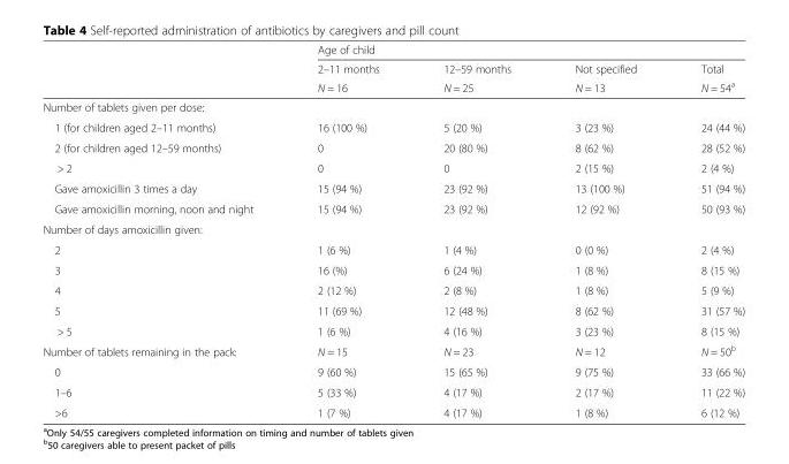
<table><thead><tr><td rowspan="3"></td><td colspan="4">Age of child</td></tr><tr><td rowspan="2">2–11 months N = 16</td><td rowspan="2">12–59 months N = 25</td><td rowspan="2">Not specified N = 13</td><td rowspan="2">Total N = 54<sup>a</sup></td></tr><tr></tr></thead><tbody><tr><td colspan="5">Number of tablets given per dose:</td></tr><tr><td>1 (for children aged 2–11 months)</td><td>16 (100 %)</td><td>5 (20 %)</td><td>3 (23 %)</td><td>24 (44 %)</td></tr><tr><td>2 (for children aged 12–59 months)</td><td>0</td><td>20 (80 %)</td><td>8 (62 %)</td><td>28 (52 %)</td></tr><tr><td>&gt; 2</td><td>0</td><td>0</td><td>2 (15 %)</td><td>2 (4 %)</td></tr><tr><td>Gave amoxicillin 3 times a day</td><td>15 (94 %)</td><td>23 (92 %)</td><td>13 (100 %)</td><td>51 (94 %)</td></tr><tr><td>Gave amoxicillin morning, noon and night</td><td>15 (94 %)</td><td>23 (92 %)</td><td>12 (92 %)</td><td>50 (93 %)</td></tr><tr><td colspan="5">Number of days amoxicillin given:</td></tr><tr><td>2</td><td>1 (6 %)</td><td>1 (4 %)</td><td>0 (0 %)</td><td>2 (4 %)</td></tr><tr><td>3</td><td>16 (%)</td><td>6 (24 %)</td><td>1 (8 %)</td><td>8 (15 %)</td></tr><tr><td>4</td><td>2 (12 %)</td><td>2 (8 %)</td><td>1 (8 %)</td><td>5 (9 %)</td></tr><tr><td>5</td><td>11 (69 %)</td><td>12 (48 %)</td><td>8 (62 %)</td><td>31 (57 %)</td></tr><tr><td>&gt; 5</td><td>1 (6 %)</td><td>4 (16 %)</td><td>3 (23 %)</td><td>8 (15 %)</td></tr><tr><td>Number of tablets remaining in the pack:</td><td>N = 15</td><td>N = 23</td><td>N = 12</td><td>N = 50<sup>b</sup></td></tr><tr><td>0</td><td>9 (60 %)</td><td>15 (65 %)</td><td>9 (75 %)</td><td>33 (66 %)</td></tr><tr><td>1–6</td><td>5 (33 %)</td><td>4 (17 %)</td><td>2 (17 %)</td><td>11 (22 %)</td></tr><tr><td>&gt;6</td><td>1 (7 %)</td><td>4 (17 %)</td><td>1 (8 %)</td><td>6 (12 %)</td></tr></tbody></table>